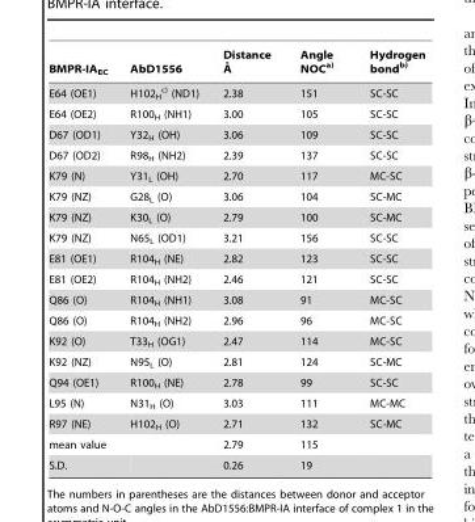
<table><thead><tr><td>BMPR-IA<sub>EC</sub></td><td>AbD1556</td><td>Distance A˚</td><td>Angle NOC<sup>a)</sup></td><td>Hydrogen bond<sup>b)</sup></td></tr></thead><tbody><tr><td>E64 (OE1)</td><td>H102<sub>H</sub> <sup>c)</sup> (ND1)</td><td>2.38</td><td>151</td><td>SC-SC</td></tr><tr><td>E64 (OE2)</td><td>R100<sub>H</sub> (NH1)</td><td>3.00</td><td>105</td><td>SC-SC</td></tr><tr><td>D67 (OD1)</td><td>Y32<sub>H</sub> (OH)</td><td>3.06</td><td>109</td><td>SC-SC</td></tr><tr><td>D67 (OD2)</td><td>R98<sub>H</sub> (NH2)</td><td>2.39</td><td>137</td><td>SC-SC</td></tr><tr><td>K79 (N)</td><td>Y31<sub>L</sub> (OH)</td><td>2.70</td><td>117</td><td>MC-SC</td></tr><tr><td>K79 (NZ)</td><td>G28<sub>L</sub> (O)</td><td>3.06</td><td>104</td><td>SC-MC</td></tr><tr><td>K79 (NZ)</td><td>K30<sub>L</sub> (O)</td><td>2.79</td><td>100</td><td>SC-MC</td></tr><tr><td>K79 (NZ)</td><td>N65<sub>L</sub> (OD1)</td><td>3.21</td><td>156</td><td>SC-SC</td></tr><tr><td>E81 (OE1)</td><td>R104<sub>H</sub> (NE)</td><td>2.82</td><td>123</td><td>SC-SC</td></tr><tr><td>E81 (OE2)</td><td>R104<sub>H</sub> (NH2)</td><td>2.46</td><td>121</td><td>SC-SC</td></tr><tr><td>Q86 (O)</td><td>R104<sub>H</sub> (NH1)</td><td>3.08</td><td>91</td><td>MC-SC</td></tr><tr><td>Q86 (O)</td><td>R104<sub>H</sub> (NH2)</td><td>2.96</td><td>96</td><td>MC-SC</td></tr><tr><td>K92 (O)</td><td>T33<sub>H</sub> (OG1)</td><td>2.47</td><td>114</td><td>MC-SC</td></tr><tr><td>K92 (NZ)</td><td>N95<sub>L</sub> (O)</td><td>2.81</td><td>124</td><td>SC-MC</td></tr><tr><td>Q94 (OE1)</td><td>R100<sub>H</sub> (NE)</td><td>2.78</td><td>99</td><td>SC-SC</td></tr><tr><td>L95 (N)</td><td>N31<sub>H</sub> (O)</td><td>3.03</td><td>111</td><td>MC-MC</td></tr><tr><td>R97 (NE)</td><td>H102<sub>H</sub> (O)</td><td>2.71</td><td>132</td><td>SC-MC</td></tr><tr><td>mean value</td><td></td><td>2.79</td><td>115</td><td></td></tr><tr><td>S.D.</td><td></td><td>0.26</td><td>19</td><td></td></tr></tbody></table>